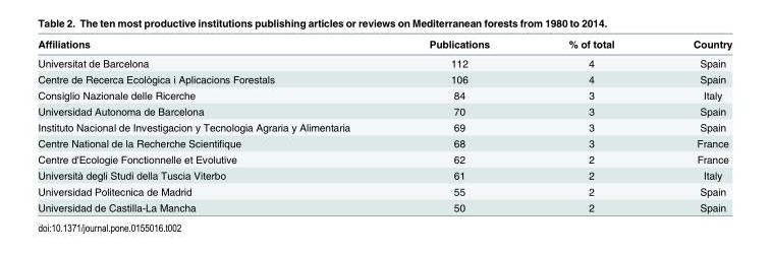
<table><thead><tr><td>Affiliations</td><td>Publications</td><td>% of total</td><td>Country</td></tr></thead><tbody><tr><td>Universitat de Barcelona</td><td>112</td><td>4</td><td>Spain</td></tr><tr><td>Centre de Recerca Ecològica i Aplicacions Forestals</td><td>106</td><td>4</td><td>Spain</td></tr><tr><td>Consiglio Nazionale delle Ricerche</td><td>84</td><td>3</td><td>Italy</td></tr><tr><td>Universidad Autonoma de Barcelona</td><td>70</td><td>3</td><td>Spain</td></tr><tr><td>Instituto Nacional de Investigacion y Tecnologia Agraria y Alimentaria</td><td>69</td><td>3</td><td>Spain</td></tr><tr><td>Centre National de la Recherche Scientifique</td><td>68</td><td>3</td><td>France</td></tr><tr><td>Centre d&#x27;Ecologie Fonctionnelle et Evolutive</td><td>62</td><td>2</td><td>France</td></tr><tr><td>Università degli Studi della Tuscia Viterbo</td><td>61</td><td>2</td><td>Italy</td></tr><tr><td>Universidad Politecnica de Madrid</td><td>55</td><td>2</td><td>Spain</td></tr><tr><td>Universidad de Castilla-La Mancha</td><td>50</td><td>2</td><td>Spain</td></tr></tbody></table>